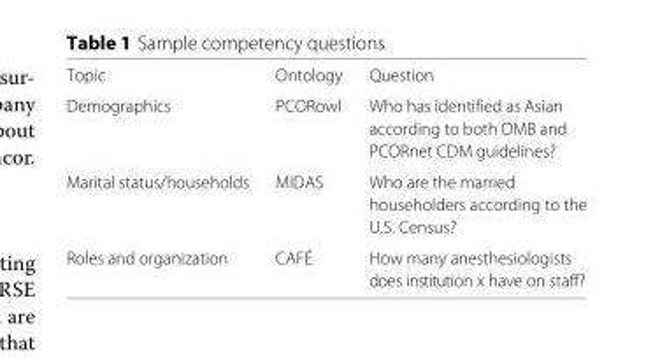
<table><tbody><tr><td>Topic</td><td>Ontology</td><td>Question</td></tr><tr><td rowspan="3">Demographics</td><td>PCORowl</td><td>Who has identified as Asian</td></tr><tr><td></td><td>according to both OMB and</td></tr><tr><td></td><td>PCORnet CDM guidelines?</td></tr><tr><td rowspan="3">Marital status/households</td><td>MIDAS</td><td>Who are the married</td></tr><tr><td></td><td>householders according to the</td></tr><tr><td></td><td>U.S. Census?</td></tr><tr><td rowspan="2">Roles and organization</td><td>CAFÉ</td><td>How many anesthesiologists</td></tr><tr><td></td><td>does institution x have on staff?</td></tr></tbody></table>